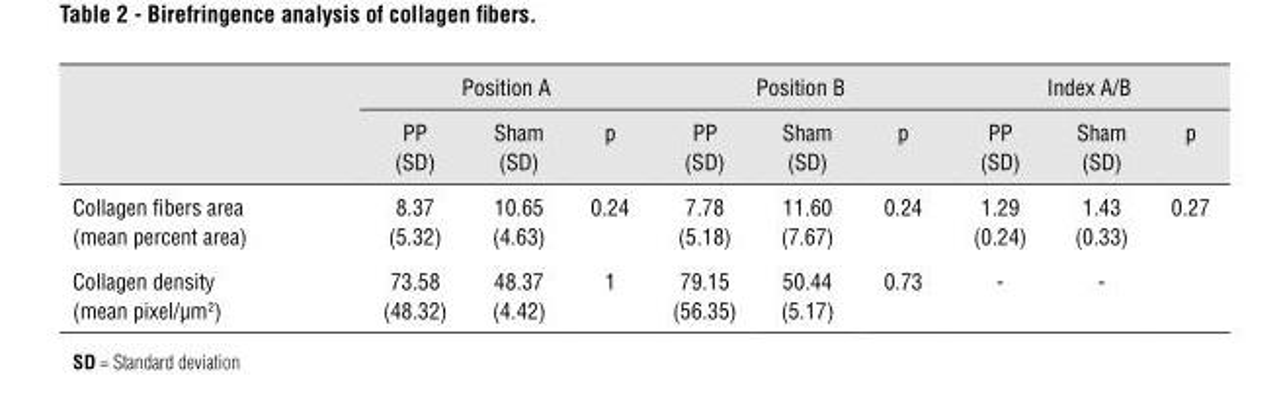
<table><thead><tr><td rowspan="2"></td><td colspan="3">Position A</td><td colspan="3">Position B</td><td colspan="3">Index A/B</td></tr><tr><td>PP (SD)</td><td>Sham (SD)</td><td>p</td><td>PP (SD)</td><td>Sham (SD)</td><td>p</td><td>PP (SD)</td><td>Sham (SD)</td><td>p</td></tr></thead><tbody><tr><td>Collagen fibers area (mean percent area)</td><td>8.37 (5.32)</td><td>10.65 (4.63)</td><td>0.24</td><td>7.78 (5.18)</td><td>11.60 (7.67)</td><td>0.24</td><td>1.29 (0.24)</td><td>1.43 (0.33)</td><td>0.27</td></tr><tr><td>Collagen density (mean pixel/μm<sup>2</sup>)</td><td>73.58 (48.32)</td><td>48.37 (4.42)</td><td>1</td><td>79.15 (56.35)</td><td>50.44 (5.17)</td><td>0.73</td><td>-</td><td>-</td><td></td></tr></tbody></table>